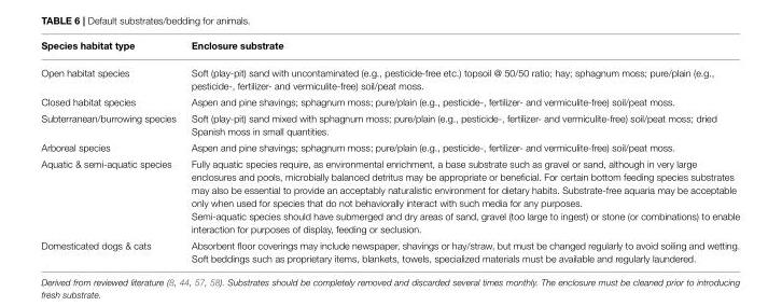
<table><thead><tr><td>Species habitat type</td><td>Enclosure substrate</td></tr></thead><tbody><tr><td>Open habitat species</td><td>Soft (play-pit) sand with uncontaminated (e.g., pesticide-free etc.) topsoil @ 50/50 ratio; hay; sphagnum moss; pure/plain (e.g., pesticide-, fertilizer- and vermiculite-free) soil/peat moss.</td></tr><tr><td>Closed habitat species</td><td>Aspen and pine shavings; sphagnum moss; pure/plain (e.g., pesticide-, fertilizer- and vermiculite-free) soil/peat moss.</td></tr><tr><td>Subterranean/burrowing species</td><td>Soft (play-pit) sand mixed with sphagnum moss; pure/plain (e.g., pesticide-, fertilizer- and vermiculite-free) soil/peat moss; dried Spanish moss in small quantities.</td></tr><tr><td>Arboreal species</td><td>Aspen and pine shavings; sphagnum moss; pure/plain (e.g., pesticide-, fertilizer- and vermiculite-free) soil/peat moss.</td></tr><tr><td>Aquatic &amp; semi-aquatic species</td><td>Fully aquatic species require, as environmental enrichment, a base substrate such as gravel or sand, although in very large enclosures and pools, microbially balanced detritus may be appropriate or beneficial. For certain bottom feeding species substrates may also be essential to provide an acceptably naturalistic environment for dietary habits. Substrate-free aquaria may be acceptable only when used for species that do not behaviorally interact with such media for any purposes. Semi-aquatic species should have submerged and dry areas of sand, gravel (too large to ingest) or stone (or combinations) to enable interaction for purposes of display, feeding or seclusion.</td></tr><tr><td>Domesticated dogs &amp; cats</td><td>Absorbent floor coverings may include newspaper, shavings or hay/straw, but must be changed regularly to avoid soiling and wetting. Soft beddings such as proprietary items, blankets, towels, specialized materials must be available and regularly laundered.</td></tr></tbody></table>